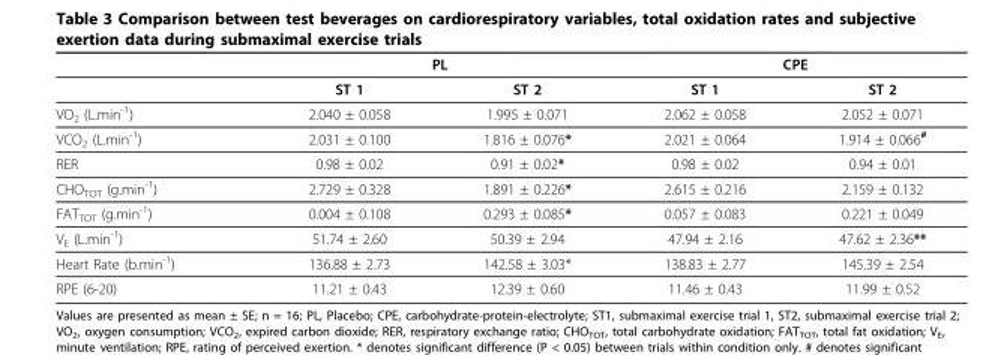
<table><thead><tr><td rowspan="2"></td><td colspan="2">PL</td><td colspan="2">CPE</td></tr><tr><td>ST 1</td><td>ST 2</td><td>ST 1</td><td>ST 2</td></tr></thead><tbody><tr><td>VO2 (L.min-1)</td><td>2.040 ± 0.058</td><td>1.995 ± 0.071</td><td>2.062 ± 0.058</td><td>2.052 ± 0.071</td></tr><tr><td>VCO2 (L.min-1)</td><td>2.031 ± 0.100</td><td>1.816 ± 0.076*</td><td>2.021 ± 0.064</td><td>1.914 ± 0.066#</td></tr><tr><td>RER</td><td>0.98 ± 0.02</td><td>0.91 ± 0.02*</td><td>0.98 ± 0.02</td><td>0.94 ± 0.01</td></tr><tr><td>CHOTOT (g.min-1)</td><td>2.729 ± 0.328</td><td>1.891 ± 0.226*</td><td>2.615 ± 0.216</td><td>2.159 ± 0.132</td></tr><tr><td>FATTOT (g.min-1)</td><td>0.004 ± 0.108</td><td>0.293 ± 0.085*</td><td>0.057 ± 0.083</td><td>0.221 ± 0.049</td></tr><tr><td>VE (L.min-1)</td><td>51.74 ± 2.60</td><td>50.39 ± 2.94</td><td>47.94 ± 2.16</td><td>47.62 ± 2.36**</td></tr><tr><td>Heart Rate (b.min-1)</td><td>136.88 ± 2.73</td><td>142.58 ± 3.03*</td><td>138.83 ± 2.77</td><td>145.39 ± 2.54</td></tr><tr><td>RPE (6-20)</td><td>11.21 ± 0.43</td><td>12.39 ± 0.60</td><td>11.46 ± 0.43</td><td>11.99 ± 0.52</td></tr></tbody></table>